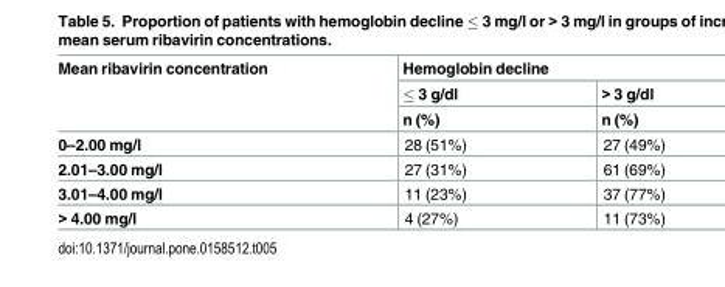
<table><thead><tr><td rowspan="3">Mean ribavirin concentration</td><td colspan="2">Hemoglobin decline</td></tr><tr><td rowspan="2">≤ 3 g/dl n (%)</td><td rowspan="2">&gt; 3 g/dl n (%)</td></tr><tr></tr></thead><tbody><tr><td>0–2.00 mg/l</td><td>28 (51%)</td><td>27 (49%)</td></tr><tr><td>2.01–3.00 mg/l</td><td>27 (31%)</td><td>61 (69%)</td></tr><tr><td>3.01–4.00 mg/l</td><td>11 (23%)</td><td>37 (77%)</td></tr><tr><td>&gt; 4.00 mg/l</td><td>4 (27%)</td><td>11 (73%)</td></tr></tbody></table>